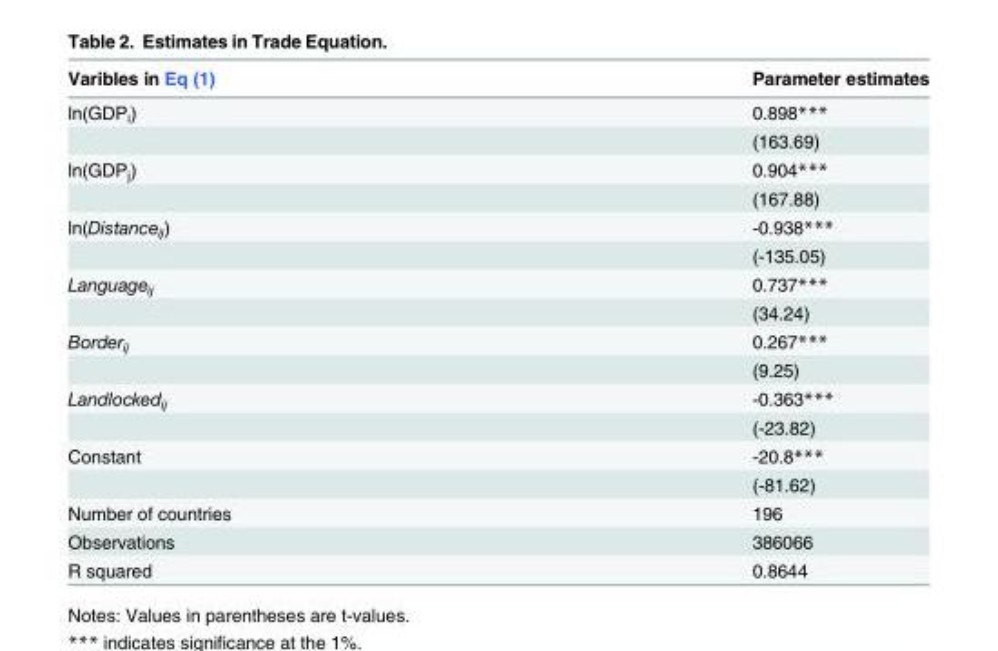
<table><thead><tr><td>Varibles in Eq (1)</td><td>Parameter estimates</td></tr></thead><tbody><tr><td rowspan="2">ln(GDP<sub>i</sub>)</td><td>0.898***</td></tr><tr><td>(163.69)</td></tr><tr><td rowspan="2">ln(GDP<sub>j</sub>)</td><td>0.904***</td></tr><tr><td>(167.88)</td></tr><tr><td rowspan="2">ln(Distance<sub>ij</sub>)</td><td>-0.938***</td></tr><tr><td>(-135.05)</td></tr><tr><td rowspan="2">Language<sub>ij</sub></td><td>0.737***</td></tr><tr><td>(34.24)</td></tr><tr><td rowspan="2">Border<sub>ij</sub></td><td>0.267***</td></tr><tr><td>(9.25)</td></tr><tr><td rowspan="2">Landlocked<sub>ij</sub></td><td>-0.363***</td></tr><tr><td>(-23.82)</td></tr><tr><td rowspan="2">Constant</td><td>-20.8***</td></tr><tr><td>(-81.62)</td></tr><tr><td>Number of countries</td><td>196</td></tr><tr><td>Observations</td><td>386066</td></tr><tr><td>R squared</td><td>0.8644</td></tr></tbody></table>